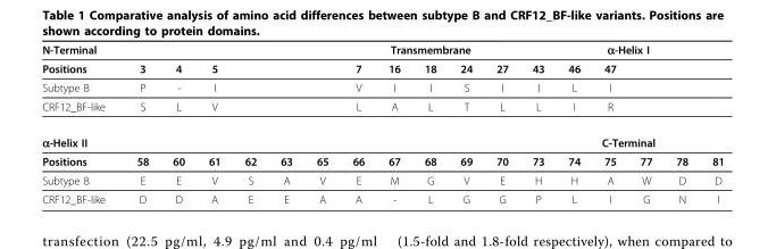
<table><thead><tr><td colspan="4">N-Terminal</td><td rowspan="2"></td><td rowspan="2"></td><td rowspan="2"></td><td colspan="5">Transmembrane</td><td colspan="6">α-Helix I</td></tr><tr><td>Positions</td><td>3</td><td>4</td><td>5</td><td>7</td><td>16</td><td>18</td><td>24</td><td>27</td><td>43</td><td>46</td><td>47</td><td></td><td></td><td></td></tr></thead><tbody><tr><td>Subtype B</td><td>P</td><td>-</td><td>I</td><td></td><td></td><td></td><td>V</td><td>I</td><td>I</td><td>S</td><td>I</td><td>I</td><td>L</td><td>I</td><td></td><td></td><td></td></tr><tr><td>CRF12_BF-like</td><td>S</td><td>L</td><td>V</td><td></td><td></td><td></td><td>L</td><td>A</td><td>L</td><td>T</td><td>L</td><td>L</td><td>I</td><td>R</td><td></td><td></td><td></td></tr><tr><td>α-Helix II</td><td></td><td></td><td></td><td></td><td></td><td></td><td></td><td></td><td></td><td></td><td></td><td colspan="6">C-Terminal</td></tr><tr><td>Positions</td><td>58</td><td>60</td><td>61</td><td>62</td><td>63</td><td>65</td><td>66</td><td>67</td><td>68</td><td>69</td><td>70</td><td>73</td><td>74</td><td>75</td><td>77</td><td>78</td><td>81</td></tr><tr><td>Subtype B</td><td>E</td><td>E</td><td>V</td><td>S</td><td>A</td><td>V</td><td>E</td><td>M</td><td>G</td><td>V</td><td>E</td><td>H</td><td>H</td><td>A</td><td>W</td><td>D</td><td>D</td></tr><tr><td>CRF12_BF-like</td><td>D</td><td>D</td><td>A</td><td>E</td><td>E</td><td>A</td><td>A</td><td>-</td><td>L</td><td>G</td><td>G</td><td>P</td><td>L</td><td>I</td><td>G</td><td>N</td><td>I</td></tr></tbody></table>